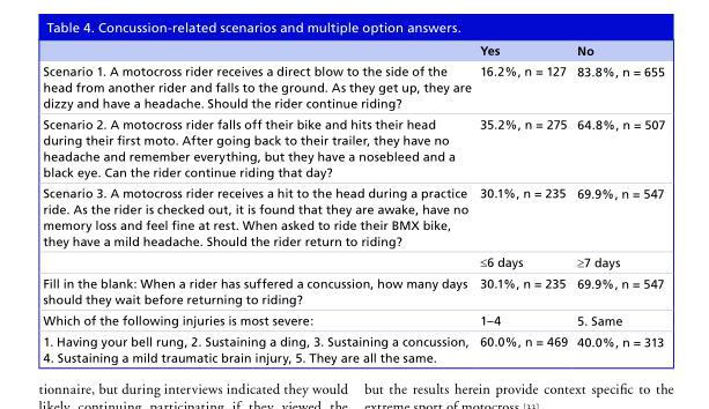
<table><thead><tr><td></td><td>Yes</td><td>No</td></tr></thead><tbody><tr><td>Scenario 1. A motocross rider receives a direct blow to the side of the head from another rider and falls to the ground. As they get up, they are dizzy and have a headache. Should the rider continue riding?</td><td>16.2%, n = 127</td><td>83.8%, n = 655</td></tr><tr><td>Scenario 2. A motocross rider falls off their bike and hits their head during their first moto. After going back to their trailer, they have no headache and remember everything, but they have a nosebleed and a black eye. Can the rider continue riding that day?</td><td>35.2%, n = 275</td><td>64.8%, n = 507</td></tr><tr><td rowspan="2">Scenario 3. A motocross rider receives a hit to the head during a practice ride. As the rider is checked out, it is found that they are awake, have no memory loss and feel fine at rest. When asked to ride their BMX bike, they have a mild headache. Should the rider return to riding?</td><td>30.1%, n = 235</td><td>69.9%, n = 547</td></tr><tr><td>≤6 days</td><td>≥7 days</td></tr><tr><td>Fill in the blank: When a rider has suffered a concussion, how many days should they wait before returning to riding?</td><td>30.1%, n = 235</td><td>69.9%, n = 547</td></tr><tr><td>Which of the following injuries is most severe:</td><td>1–4</td><td>5. Same</td></tr><tr><td>1. Having your bell rung, 2. Sustaining a ding, 3. Sustaining a concussion, 4. Sustaining a mild traumatic brain injury, 5. They are all the same.</td><td>60.0%, n = 469</td><td>40.0%, n = 313</td></tr></tbody></table>